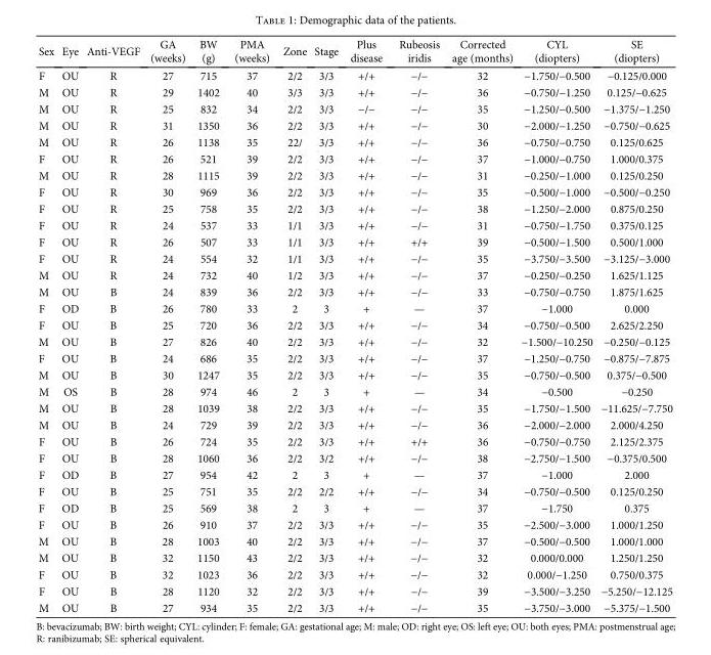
<table><thead><tr><td>Sex</td><td>Eye</td><td>Anti-VEGF</td><td>GA (weeks)</td><td>BW (g)</td><td>PMA (weeks)</td><td>Zone</td><td>Stage</td><td>Plus disease</td><td>Rubeosis iridis</td><td>Corrected age (months)</td><td>CYL (diopters)</td><td>SE (diopters)</td></tr></thead><tbody><tr><td>F</td><td>OU</td><td>R</td><td>27</td><td>715</td><td>37</td><td>2/2</td><td>3/3</td><td>+/+</td><td>−/−</td><td>32</td><td>−1.750/−0.500</td><td>−0.125/0.000</td></tr><tr><td>M</td><td>OU</td><td>R</td><td>29</td><td>1402</td><td>40</td><td>3/3</td><td>3/3</td><td>+/+</td><td>−/−</td><td>36</td><td>−0.750/−1.250</td><td>0.125/−0.625</td></tr><tr><td>M</td><td>OU</td><td>R</td><td>25</td><td>832</td><td>34</td><td>2/2</td><td>3/3</td><td>−/−</td><td>−/−</td><td>35</td><td>−1.250/−0.500</td><td>−1.375/−1.250</td></tr><tr><td>M</td><td>OU</td><td>R</td><td>31</td><td>1350</td><td>36</td><td>2/2</td><td>3/3</td><td>+/+</td><td>−/−</td><td>30</td><td>−2.000/−1.250</td><td>−0.750/−0.625</td></tr><tr><td>M</td><td>OU</td><td>R</td><td>26</td><td>1138</td><td>35</td><td>22/</td><td>3/3</td><td>+/+</td><td>−/−</td><td>36</td><td>−0.750/−0.750</td><td>0.125/0.625</td></tr><tr><td>F</td><td>OU</td><td>R</td><td>26</td><td>521</td><td>39</td><td>2/2</td><td>3/3</td><td>+/+</td><td>−/−</td><td>37</td><td>−1.000/−0.750</td><td>1.000/0.375</td></tr><tr><td>M</td><td>OU</td><td>R</td><td>28</td><td>1115</td><td>39</td><td>2/2</td><td>3/3</td><td>+/+</td><td>−/−</td><td>31</td><td>−0.250/−1.000</td><td>0.125/0.250</td></tr><tr><td>F</td><td>OU</td><td>R</td><td>30</td><td>969</td><td>36</td><td>2/2</td><td>3/3</td><td>+/+</td><td>−/−</td><td>35</td><td>−0.500/−1.000</td><td>−0.500/−0.250</td></tr><tr><td>F</td><td>OU</td><td>R</td><td>25</td><td>758</td><td>35</td><td>2/2</td><td>3/3</td><td>+/+</td><td>−/−</td><td>38</td><td>−1.250/−2.000</td><td>0.875/0.250</td></tr><tr><td>F</td><td>OU</td><td>R</td><td>24</td><td>537</td><td>33</td><td>1/1</td><td>3/3</td><td>+/+</td><td>−/−</td><td>31</td><td>−0.750/−1.750</td><td>0.375/0.125</td></tr><tr><td>F</td><td>OU</td><td>R</td><td>26</td><td>507</td><td>33</td><td>1/1</td><td>3/3</td><td>+/+</td><td>+/+</td><td>39</td><td>−0.500/−1.500</td><td>0.500/1.000</td></tr><tr><td>F</td><td>OU</td><td>R</td><td>24</td><td>554</td><td>32</td><td>1/1</td><td>3/3</td><td>+/+</td><td>−/−</td><td>35</td><td>−3.750/−3.500</td><td>−3.125/−3.000</td></tr><tr><td>M</td><td>OU</td><td>R</td><td>24</td><td>732</td><td>40</td><td>1/2</td><td>3/3</td><td>+/+</td><td>−/−</td><td>37</td><td>−0.250/−0.250</td><td>1.625/1.125</td></tr><tr><td>M</td><td>OU</td><td>B</td><td>24</td><td>839</td><td>36</td><td>2/2</td><td>3/3</td><td>+/+</td><td>−/−</td><td>33</td><td>−0.750/−0.750</td><td>1.875/1.625</td></tr><tr><td>F</td><td>OD</td><td>B</td><td>26</td><td>780</td><td>33</td><td>2</td><td>3</td><td>+</td><td>—</td><td>37</td><td>−1.000</td><td>0.000</td></tr><tr><td>F</td><td>OU</td><td>B</td><td>25</td><td>720</td><td>36</td><td>2/2</td><td>3/3</td><td>+/+</td><td>−/−</td><td>34</td><td>−0.750/−0.500</td><td>2.625/2.250</td></tr><tr><td>M</td><td>OU</td><td>B</td><td>27</td><td>826</td><td>40</td><td>2/2</td><td>3/3</td><td>+/+</td><td>−/−</td><td>32</td><td>−1.500/−10.250</td><td>−0.250/−0.125</td></tr><tr><td>F</td><td>OU</td><td>B</td><td>24</td><td>686</td><td>35</td><td>2/2</td><td>3/3</td><td>+/+</td><td>−/−</td><td>37</td><td>−1.250/−0.750</td><td>−0.875/−7.875</td></tr><tr><td>M</td><td>OU</td><td>B</td><td>30</td><td>1247</td><td>35</td><td>2/2</td><td>3/3</td><td>+/+</td><td>−/−</td><td>35</td><td>−0.750/−0.500</td><td>0.375/−0.500</td></tr><tr><td>M</td><td>OS</td><td>B</td><td>28</td><td>974</td><td>46</td><td>2</td><td>3</td><td>+</td><td>—</td><td>34</td><td>−0.500</td><td>−0.250</td></tr><tr><td>M</td><td>OU</td><td>B</td><td>28</td><td>1039</td><td>38</td><td>2/2</td><td>3/3</td><td>+/+</td><td>−/−</td><td>35</td><td>−1.750/−1.500</td><td>−11.625/−7.750</td></tr><tr><td>M</td><td>OU</td><td>B</td><td>24</td><td>729</td><td>39</td><td>2/2</td><td>3/3</td><td>+/+</td><td>−/−</td><td>36</td><td>−2.000/−2.000</td><td>2.000/4.250</td></tr><tr><td>F</td><td>OU</td><td>B</td><td>26</td><td>724</td><td>35</td><td>2/2</td><td>3/3</td><td>+/+</td><td>+/+</td><td>36</td><td>−0.750/−0.750</td><td>2.125/2.375</td></tr><tr><td>F</td><td>OU</td><td>B</td><td>28</td><td>1060</td><td>36</td><td>2/2</td><td>3/2</td><td>+/+</td><td>−/−</td><td>38</td><td>−2.750/−1.500</td><td>−0.375/0.500</td></tr><tr><td>F</td><td>OD</td><td>B</td><td>27</td><td>954</td><td>42</td><td>2</td><td>3</td><td>+</td><td>—</td><td>37</td><td>−1.000</td><td>2.000</td></tr><tr><td>F</td><td>OU</td><td>B</td><td>25</td><td>751</td><td>35</td><td>2/2</td><td>2/2</td><td>+/+</td><td>−/−</td><td>34</td><td>−0.750/−0.500</td><td>0.125/0.250</td></tr><tr><td>F</td><td>OD</td><td>B</td><td>25</td><td>569</td><td>38</td><td>2</td><td>3</td><td>+</td><td>—</td><td>37</td><td>−1.750</td><td>0.375</td></tr><tr><td>F</td><td>OU</td><td>B</td><td>26</td><td>910</td><td>37</td><td>2/2</td><td>3/3</td><td>+/+</td><td>−/−</td><td>35</td><td>−2.500/−3.000</td><td>1.000/1.250</td></tr><tr><td>M</td><td>OU</td><td>B</td><td>28</td><td>1003</td><td>40</td><td>2/2</td><td>3/3</td><td>+/+</td><td>−/−</td><td>37</td><td>−0.500/−0.500</td><td>1.000/1.000</td></tr><tr><td>M</td><td>OU</td><td>B</td><td>32</td><td>1150</td><td>43</td><td>2/2</td><td>3/3</td><td>+/+</td><td>−/−</td><td>32</td><td>0.000/0.000</td><td>1.250/1.250</td></tr><tr><td>F</td><td>OU</td><td>B</td><td>32</td><td>1023</td><td>36</td><td>2/2</td><td>3/3</td><td>+/+</td><td>−/−</td><td>32</td><td>0.000/−1.250</td><td>0.750/0.375</td></tr><tr><td>F</td><td>OU</td><td>B</td><td>28</td><td>1120</td><td>32</td><td>2/2</td><td>3/3</td><td>+/+</td><td>−/−</td><td>39</td><td>−3.500/−3.250</td><td>−5.250/−12.125</td></tr><tr><td>M</td><td>OU</td><td>B</td><td>27</td><td>934</td><td>35</td><td>2/2</td><td>3/3</td><td>+/+</td><td>−/−</td><td>35</td><td>−3.750/−3.000</td><td>−5.375/−1.500</td></tr></tbody></table>